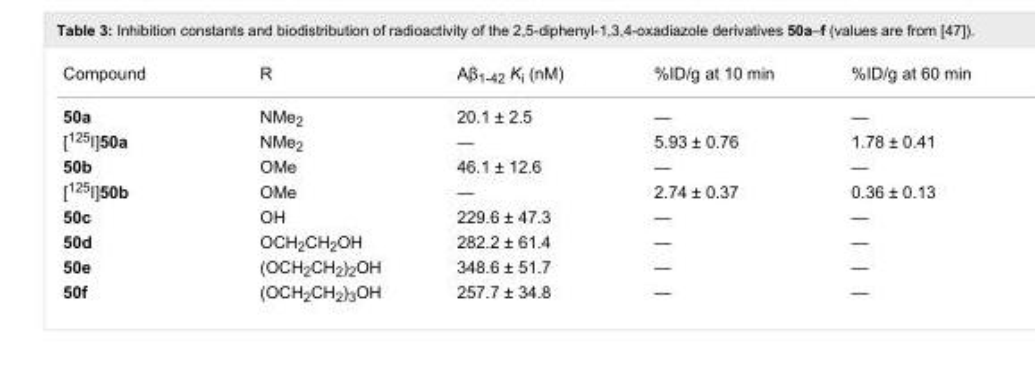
<table><tbody><tr><td>Compound</td><td>R</td><td>Aβ<sub>1-42</sub> K<sub>i</sub> (nM)</td><td>%ID/g at 10 min</td><td>%ID/g at 60 min</td></tr><tr><td>50a</td><td>NMe<sub>2</sub></td><td>20.1 ± 2.5</td><td>—</td><td>—</td></tr><tr><td>[<sup>125</sup>I]50a</td><td>NMe<sub>2</sub></td><td>—</td><td>5.93 ± 0.76</td><td>1.78 ± 0.41</td></tr><tr><td>50b</td><td>OMe</td><td>46.1 ± 12.6</td><td>—</td><td>—</td></tr><tr><td>[<sup>125</sup>I]50b</td><td>OMe</td><td>—</td><td>2.74 ± 0.37</td><td>0.36 ± 0.13</td></tr><tr><td>50c</td><td>OH</td><td>229.6 ± 47.3</td><td>—</td><td>—</td></tr><tr><td>50d</td><td>OCH<sub>2</sub>CH<sub>2</sub>OH</td><td>282.2 ± 61.4</td><td>—</td><td>—</td></tr><tr><td>50e</td><td>(OCH<sub>2</sub>CH<sub>2</sub>)<sub>2</sub>OH</td><td>348.6 ± 51.7</td><td>—</td><td>—</td></tr><tr><td>50f</td><td>(OCH<sub>2</sub>CH<sub>2</sub>)<sub>3</sub>OH</td><td>257.7 ± 34.8</td><td>—</td><td>—</td></tr></tbody></table>